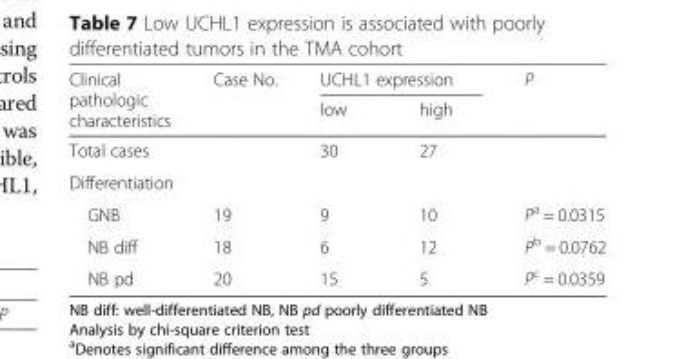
<table><thead><tr><td rowspan="2">Clinical pathologic characteristics</td><td rowspan="2">Case No.</td><td colspan="2">UCHL1 expression</td><td rowspan="2">P</td></tr><tr><td>low</td><td>high</td></tr></thead><tbody><tr><td>Total cases</td><td></td><td>30</td><td>27</td><td></td></tr><tr><td colspan="5">Differentiation</td></tr><tr><td>GNB</td><td>19</td><td>9</td><td>10</td><td>P<sup>a</sup> = 0.0315</td></tr><tr><td>NB diff</td><td>18</td><td>6</td><td>12</td><td>P<sup>b</sup> = 0.0762</td></tr><tr><td>NB pd</td><td>20</td><td>15</td><td>5</td><td>P<sup>c</sup> = 0.0359</td></tr></tbody></table>